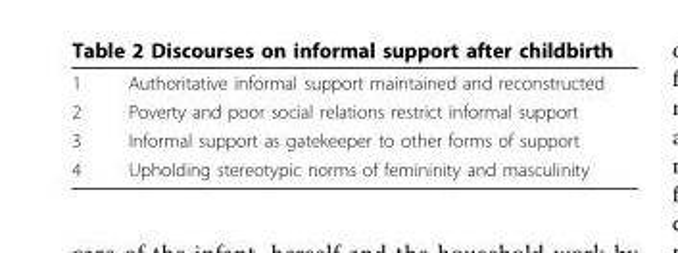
<table><tbody><tr><td>1</td><td>Authoritative informal support maintained and reconstructed</td></tr><tr><td>2</td><td>Poverty and poor social relations restrict informal support</td></tr><tr><td>3</td><td>Informal support as gatekeeper to other forms of support</td></tr><tr><td>4</td><td>Upholding stereotypic norms of femininity and masculinity</td></tr></tbody></table>